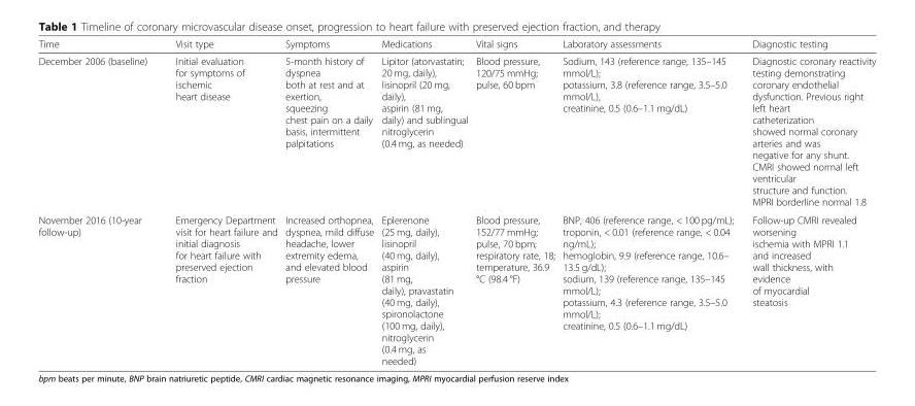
<table><thead><tr><td>Time</td><td>Visit type</td><td>Symptoms</td><td>Medications</td><td>Vital signs</td><td>Laboratory assessments</td><td>Diagnostic testing</td></tr></thead><tbody><tr><td>December 2006 (baseline)</td><td>Initial evaluation for symptoms of ischemic heart disease</td><td>5-month history of dyspnea both at rest and at exertion, squeezing chest pain on a daily basis, intermittent palpitations</td><td>Lipitor (atorvastatin; 20 mg, daily), lisinopril (20 mg, daily), aspirin (81 mg, daily) and sublingual nitroglycerin (0.4 mg, as needed)</td><td>Blood pressure, 120/75 mmHg; pulse, 60 bpm</td><td>Sodium, 143 (reference range, 135–145 mmol/L); potassium, 3.8 (reference range, 3.5–5.0 mmol/L), creatinine, 0.5 (0.6–1.1 mg/dL)</td><td>Diagnostic coronary reactivity testing demonstrating coronary endothelial dysfunction. Previous right left heart catheterization showed normal coronary arteries and was negative for any shunt. CMRI showed normal left ventricular structure and function. MPRI borderline normal 1.8</td></tr><tr><td>November 2016 (10-year follow-up)</td><td>Emergency Department visit for heart failure and initial diagnosis for heart failure with preserved ejection fraction</td><td>Increased orthopnea, dyspnea, mild diffuse headache, lower extremity edema, and elevated blood pressure</td><td>Eplerenone (25 mg, daily), lisinopril (40 mg, daily), aspirin (81 mg, daily), pravastatin (40 mg, daily), spironolactone (100 mg, daily), nitroglycerin (0.4 mg, as needed)</td><td>Blood pressure, 152/77 mmHg; pulse, 70 bpm; respiratory rate, 18; temperature, 36.9 °C (98.4 °F)</td><td>BNP, 406 (reference range, &lt; 100 pg/mL); troponin, &lt; 0.01 (reference range, &lt; 0.04 ng/mL); hemoglobin, 9.9 (reference range, 10.6– 13.5 g/dL); sodium, 139 (reference range, 135–145 mmol/L); potassium, 4.3 (reference range, 3.5–5.0 mmol/L); creatinine, 0.5 (0.6–1.1 mg/dL)</td><td>Follow-up CMRI revealed worsening ischemia with MPRI 1.1 and increased wall thickness, with evidence of myocardial steatosis</td></tr></tbody></table>